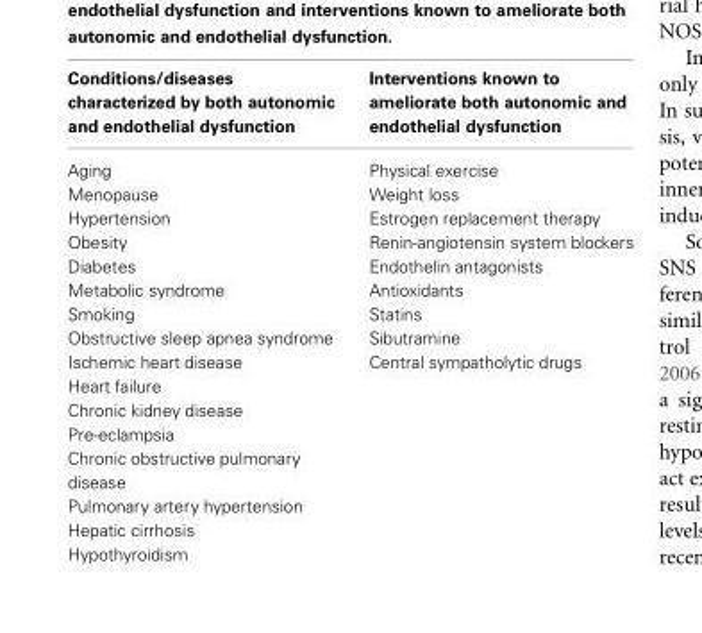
<table><thead><tr><td>Conditions/diseases characterized by both autonomic and endothelial dysfunction</td><td>Interventions known to ameliorate both autonomic and endothelial dysfunction</td></tr></thead><tbody><tr><td>Aging Menopause Hypertension Obesity Diabetes Metabolic syndrome Smoking Obstructive sleep apnea syndrome Ischemic heart disease Heart failure Chronic kidney disease Pre-eclampsia Chronic obstructive pulmonary disease Pulmonary artery hypertension Hepatic cirrhosis Hypothyroidism</td><td>Physical exercise Weight loss Estrogen replacement therapy Renin-angiotensin system blockers Endothelin antagonists Antioxidants Statins Sibutramine Central sympatholytic drugs</td></tr></tbody></table>